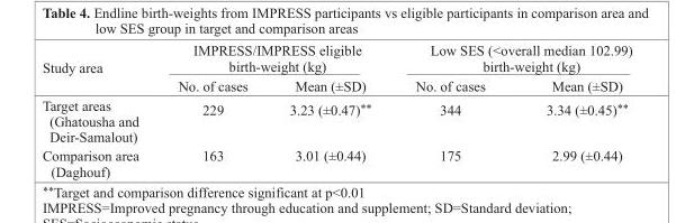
<table><thead><tr><td rowspan="2">Study area</td><td colspan="2">IMPRESS/IMPRESS eligible birth-weight (kg)</td><td colspan="2">Low SES (&lt;overall median 102.99) birth-weight (kg)</td></tr><tr><td>No. of cases</td><td>Mean (±SD)</td><td>No. of cases</td><td>Mean (±SD)</td></tr></thead><tbody><tr><td>Target areas (Ghatousha and Deir-Samalout)</td><td>229</td><td>3.23 (±0.47)**</td><td>344</td><td>3.34 (±0.45)**</td></tr><tr><td>Comparison area (Daghouf)</td><td>163</td><td>3.01 (±0.44)</td><td>175</td><td>2.99 (±0.44)</td></tr></tbody></table>